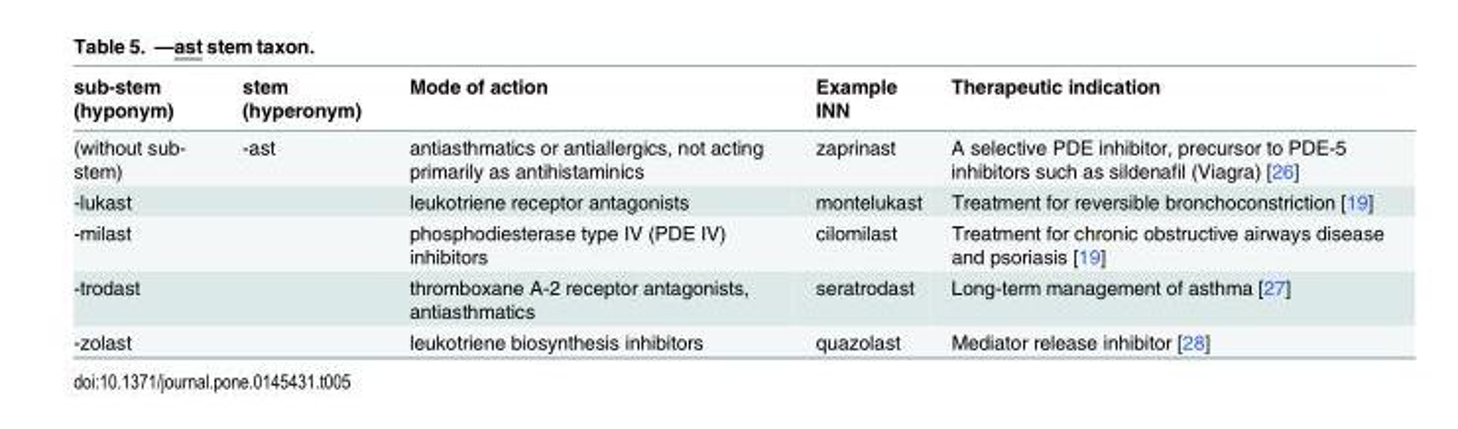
<table><thead><tr><td>sub-stem (hyponym)</td><td>stem (hyperonym)</td><td>Mode of action</td><td>Example INN</td><td>Therapeutic indication</td></tr></thead><tbody><tr><td>(without sub- stem)</td><td>-ast</td><td>antiasthmatics or antiallergics, not acting primarily as antihistaminics</td><td>zaprinast</td><td>A selective PDE inhibitor, precursor to PDE-5 inhibitors such as sildenafil (Viagra) [26]</td></tr><tr><td>-lukast</td><td></td><td>leukotriene receptor antagonists</td><td>montelukast</td><td>Treatment for reversible bronchoconstriction [19]</td></tr><tr><td>-milast</td><td></td><td>phosphodiesterase type IV (PDE IV) inhibitors</td><td>cilomilast</td><td>Treatment for chronic obstructive airways disease and psoriasis [19]</td></tr><tr><td>-trodast</td><td></td><td>thromboxane A-2 receptor antagonists, antiasthmatics</td><td>seratrodast</td><td>Long-term management of asthma [27]</td></tr><tr><td>-zolast</td><td></td><td>leukotriene biosynthesis inhibitors</td><td>quazolast</td><td>Mediator release inhibitor [28]</td></tr></tbody></table>